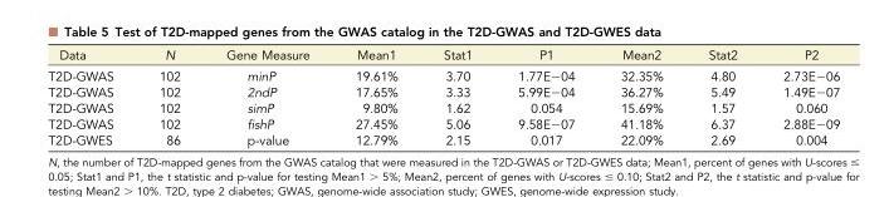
<table><thead><tr><td>Data</td><td>N</td><td>Gene Measure</td><td>Mean1</td><td>Stat1</td><td>P1</td><td>Mean2</td><td>Stat2</td><td>P2</td></tr></thead><tbody><tr><td>T2D-GWAS</td><td>102</td><td>minP</td><td>19.61%</td><td>3.70</td><td>1.77E−04</td><td>32.35%</td><td>4.80</td><td>2.73E−06</td></tr><tr><td>T2D-GWAS</td><td>102</td><td>2ndP</td><td>17.65%</td><td>3.33</td><td>5.99E−04</td><td>36.27%</td><td>5.49</td><td>1.49E−07</td></tr><tr><td>T2D-GWAS</td><td>102</td><td>simP</td><td>9.80%</td><td>1.62</td><td>0.054</td><td>15.69%</td><td>1.57</td><td>0.060</td></tr><tr><td>T2D-GWAS</td><td>102</td><td>fishP</td><td>27.45%</td><td>5.06</td><td>9.58E−07</td><td>41.18%</td><td>6.37</td><td>2.88E−09</td></tr><tr><td>T2D-GWES</td><td>86</td><td>p-value</td><td>12.79%</td><td>2.15</td><td>0.017</td><td>22.09%</td><td>2.69</td><td>0.004</td></tr></tbody></table>